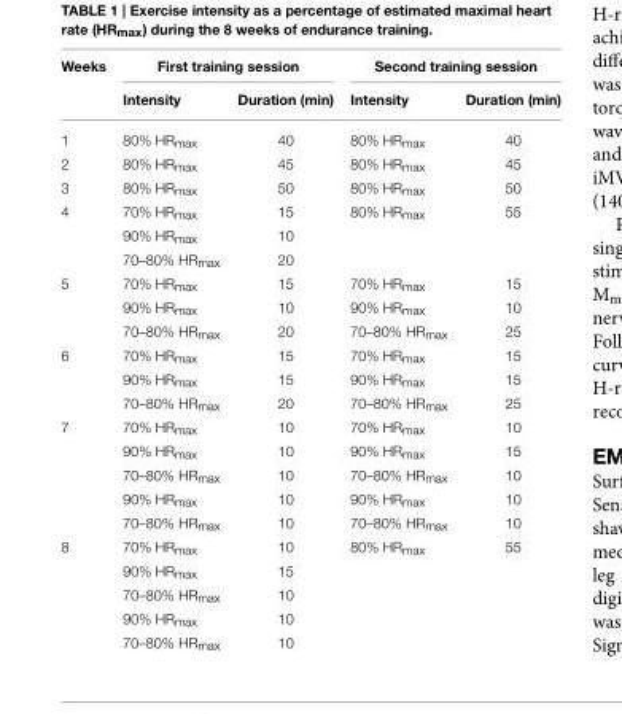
<table><thead><tr><td rowspan="2">Weeks</td><td colspan="2">First training session</td><td colspan="2">Second training session</td></tr><tr><td>Intensity</td><td>Duration (min)</td><td>Intensity</td><td>Duration (min)</td></tr></thead><tbody><tr><td>1</td><td>80% HR<sub>max</sub></td><td>40</td><td>80% HR<sub>max</sub></td><td>40</td></tr><tr><td>2</td><td>80% HR<sub>max</sub></td><td>45</td><td>80% HR<sub>max</sub></td><td>45</td></tr><tr><td>3</td><td>80% HR<sub>max</sub></td><td>50</td><td>80% HR<sub>max</sub></td><td>50</td></tr><tr><td rowspan="3">4</td><td>70% HR<sub>max</sub></td><td>15</td><td>80% HR<sub>max</sub></td><td>55</td></tr><tr><td>90% HR<sub>max</sub></td><td>10</td><td></td><td></td></tr><tr><td>70–80% HR<sub>max</sub></td><td>20</td><td></td><td></td></tr><tr><td rowspan="3">5</td><td>70% HR<sub>max</sub></td><td>15</td><td>70% HR<sub>max</sub></td><td>15</td></tr><tr><td>90% HR<sub>max</sub></td><td>10</td><td>90% HR<sub>max</sub></td><td>10</td></tr><tr><td>70–80% HR<sub>max</sub></td><td>20</td><td>70–80% HR<sub>max</sub></td><td>25</td></tr><tr><td rowspan="3">6</td><td>70% HR<sub>max</sub></td><td>15</td><td>70% HR<sub>max</sub></td><td>15</td></tr><tr><td>90% HR<sub>max</sub></td><td>15</td><td>90% HR<sub>max</sub></td><td>15</td></tr><tr><td>70–80% HR<sub>max</sub></td><td>20</td><td>70–80% HR<sub>max</sub></td><td>25</td></tr><tr><td rowspan="5">7</td><td>70% HR<sub>max</sub></td><td>10</td><td>70% HR<sub>max</sub></td><td>10</td></tr><tr><td>90% HR<sub>max</sub></td><td>10</td><td>90% HR<sub>max</sub></td><td>15</td></tr><tr><td>70–80% HR<sub>max</sub></td><td>10</td><td>70–80% HR<sub>max</sub></td><td>10</td></tr><tr><td>90% HR<sub>max</sub></td><td>10</td><td>90% HR<sub>max</sub></td><td>10</td></tr><tr><td>70–80% HR<sub>max</sub></td><td>10</td><td>70–80% HR<sub>max</sub></td><td>10</td></tr><tr><td rowspan="5">8</td><td>70% HR<sub>max</sub></td><td>10</td><td>80% HR<sub>max</sub></td><td>55</td></tr><tr><td>90% HR<sub>max</sub></td><td>15</td><td></td><td></td></tr><tr><td>70–80% HR<sub>max</sub></td><td>10</td><td></td><td></td></tr><tr><td>90% HR<sub>max</sub></td><td>10</td><td></td><td></td></tr><tr><td>70–80% HR<sub>max</sub></td><td>10</td><td></td><td></td></tr></tbody></table>